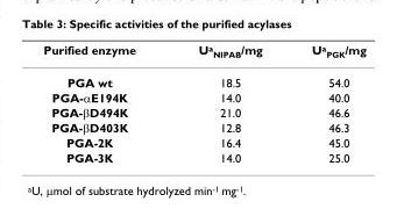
<table><thead><tr><td>Purified enzyme</td><td>U<sup>a</sup><sub>NIPAB</sub>/mg</td><td>U<sup>a</sup><sub>PGK</sub>/mg</td></tr></thead><tbody><tr><td>PGA wt</td><td>18.5</td><td>54.0</td></tr><tr><td>PGA-αE194K</td><td>14.0</td><td>40.0</td></tr><tr><td>PGA-βD494K</td><td>21.0</td><td>46.6</td></tr><tr><td>PGA-βD403K</td><td>12.8</td><td>46.3</td></tr><tr><td>PGA-2K</td><td>16.4</td><td>45.0</td></tr><tr><td>PGA-3K</td><td>14.0</td><td>25.0</td></tr></tbody></table>